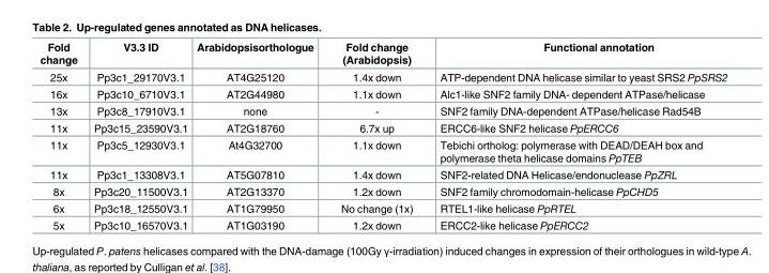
<table><thead><tr><td>Fold change</td><td>V3.3 ID</td><td>Arabidopsisorthologue</td><td>Fold change (Arabidopsis)</td><td>Functional annotation</td></tr></thead><tbody><tr><td>25x</td><td>Pp3c1_29170V3.1</td><td>AT4G25120</td><td>1.4x down</td><td>ATP-dependent DNA helicase similar to yeast SRS2 PpSRS2</td></tr><tr><td>16x</td><td>Pp3c10_6710V3.1</td><td>AT2G44980</td><td>1.1x down</td><td>Alc1-like SNF2 family DNA- dependent ATPase/helicase</td></tr><tr><td>13x</td><td>Pp3c8_17910V3.1</td><td>none</td><td>-</td><td>SNF2 family DNA-dependent ATPase/helicase Rad54B</td></tr><tr><td>11x</td><td>Pp3c15_23590V3.1</td><td>AT2G18760</td><td>6.7x up</td><td>ERCC6-like SNF2 helicase PpERCC6</td></tr><tr><td>11x</td><td>Pp3c5_12930V3.1</td><td>At4G32700</td><td>1.1x down</td><td>Tebichi ortholog: polymerase with DEAD/DEAH box and polymerase theta helicase domains PpTEB</td></tr><tr><td>11x</td><td>Pp3c1_13308V3.1</td><td>AT5G07810</td><td>1.4x down</td><td>SNF2-related DNA Helicase/endonuclease PpZRL</td></tr><tr><td>8x</td><td>Pp3c20_11500V3.1</td><td>AT2G13370</td><td>1.2x down</td><td>SNF2 family chromodomain-helicase PpCHD5</td></tr><tr><td>6x</td><td>Pp3c18_12550V3.1</td><td>AT1G79950</td><td>No change (1x)</td><td>RTEL1-like helicase PpRTEL</td></tr><tr><td>5x</td><td>Pp3c10_16570V3.1</td><td>AT1G03190</td><td>1.2x down</td><td>ERCC2-like helicase PpERCC2</td></tr></tbody></table>